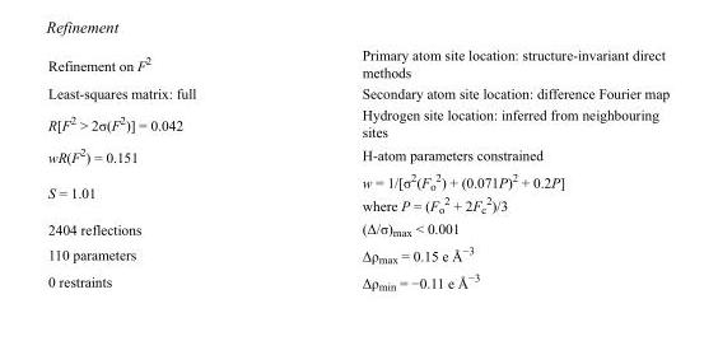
<table><tbody><tr><td>Refinement on F<sup>2</sup></td><td>Primary atom site location: structure-invariant direct methods</td></tr><tr><td>Least-squares matrix: full</td><td>Secondary atom site location: difference Fourier map</td></tr><tr><td>R[F<sup>2</sup> &gt; 2σ(F<sup>2</sup>)] = 0.042</td><td>Hydrogen site location: inferred from neighbouring sites</td></tr><tr><td>wR(F<sup>2</sup>) = 0.151</td><td>H-atom parameters constrained</td></tr><tr><td>S = 1.01</td><td>w = 1/[σ<sup>2</sup>(F<sub>o</sub> <sup>2</sup>) + (0.071P)<sup>2</sup> + 0.2P] where P = (F<sub>o</sub> <sup>2</sup> + 2F<sub>c</sub> <sup>2</sup>)/3</td></tr><tr><td>2404 reflections</td><td>(Δ/σ)<sub>max</sub> &lt; 0.001</td></tr><tr><td>110 parameters</td><td>Δρ<sub>max</sub> = 0.15 e Å<sup>−3</sup></td></tr><tr><td>0 restraints</td><td>Δρ<sub>min</sub> = −0.11 e Å<sup>−3</sup></td></tr></tbody></table>